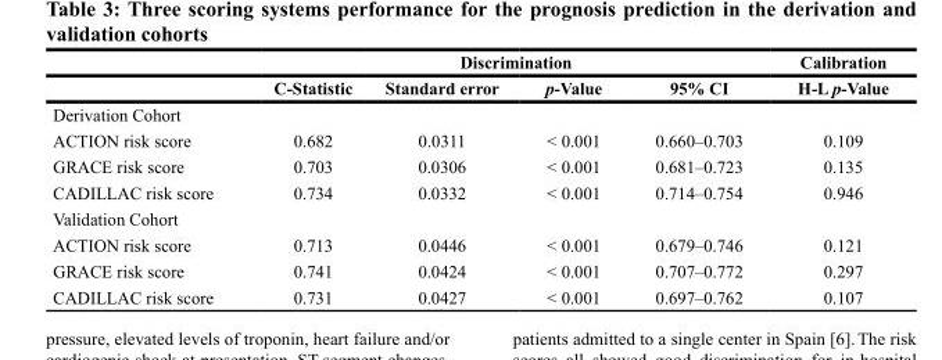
<table><thead><tr><td rowspan="2"></td><td colspan="4">Discrimination</td><td rowspan="2">Calibration H-L p-Value</td></tr><tr><td>C-Statistic</td><td>Standard error</td><td>p-Value</td><td>95% CI</td></tr></thead><tbody><tr><td colspan="6">Derivation Cohort</td></tr><tr><td>ACTION risk score</td><td>0.682</td><td>0.0311</td><td>&lt; 0.001</td><td>0.660–0.703</td><td>0.109</td></tr><tr><td>GRACE risk score</td><td>0.703</td><td>0.0306</td><td>&lt; 0.001</td><td>0.681–0.723</td><td>0.135</td></tr><tr><td>CADILLAC risk score</td><td>0.734</td><td>0.0332</td><td>&lt; 0.001</td><td>0.714–0.754</td><td>0.946</td></tr><tr><td colspan="6">Validation Cohort</td></tr><tr><td>ACTION risk score</td><td>0.713</td><td>0.0446</td><td>&lt; 0.001</td><td>0.679–0.746</td><td>0.121</td></tr><tr><td>GRACE risk score</td><td>0.741</td><td>0.0424</td><td>&lt; 0.001</td><td>0.707–0.772</td><td>0.297</td></tr><tr><td>CADILLAC risk score</td><td>0.731</td><td>0.0427</td><td>&lt; 0.001</td><td>0.697–0.762</td><td>0.107</td></tr></tbody></table>